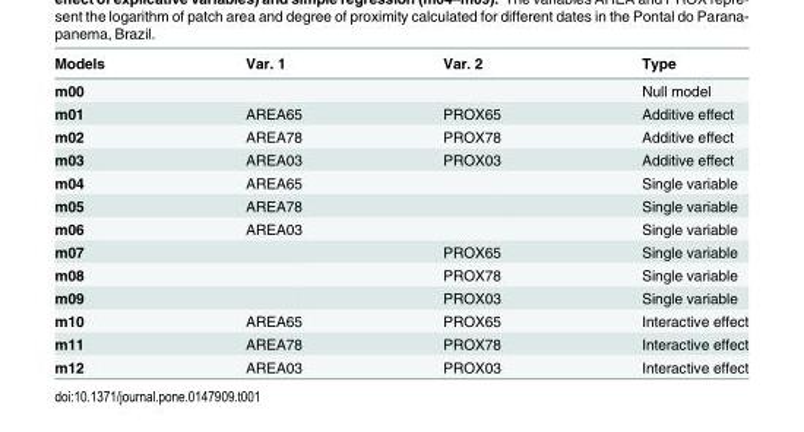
<table><thead><tr><td>Models</td><td>Var. 1</td><td>Var. 2</td><td>Type</td></tr></thead><tbody><tr><td>m00</td><td></td><td></td><td>Null model</td></tr><tr><td>m01</td><td>AREA65</td><td>PROX65</td><td>Additive effect</td></tr><tr><td>m02</td><td>AREA78</td><td>PROX78</td><td>Additive effect</td></tr><tr><td>m03</td><td>AREA03</td><td>PROX03</td><td>Additive effect</td></tr><tr><td>m04</td><td>AREA65</td><td></td><td>Single variable</td></tr><tr><td>m05</td><td>AREA78</td><td></td><td>Single variable</td></tr><tr><td>m06</td><td>AREA03</td><td></td><td>Single variable</td></tr><tr><td>m07</td><td></td><td>PROX65</td><td>Single variable</td></tr><tr><td>m08</td><td></td><td>PROX78</td><td>Single variable</td></tr><tr><td>m09</td><td></td><td>PROX03</td><td>Single variable</td></tr><tr><td>m10</td><td>AREA65</td><td>PROX65</td><td>Interactive effect</td></tr><tr><td>m11</td><td>AREA78</td><td>PROX78</td><td>Interactive effect</td></tr><tr><td>m12</td><td>AREA03</td><td>PROX03</td><td>Interactive effect</td></tr></tbody></table>